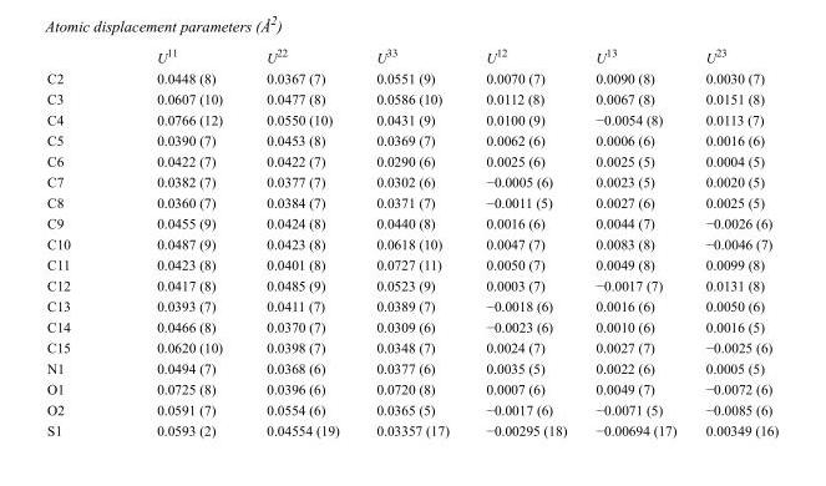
<table><thead><tr><td></td><td>U<sup>11</sup></td><td>U<sup>22</sup></td><td>U<sup>33</sup></td><td>U<sup>12</sup></td><td>U<sup>13</sup></td><td>U<sup>23</sup></td></tr></thead><tbody><tr><td>C2</td><td>0.0448 (8)</td><td>0.0367 (7)</td><td>0.0551 (9)</td><td>0.0070 (7)</td><td>0.0090 (8)</td><td>0.0030 (7)</td></tr><tr><td>C3</td><td>0.0607 (10)</td><td>0.0477 (8)</td><td>0.0586 (10)</td><td>0.0112 (8)</td><td>0.0067 (8)</td><td>0.0151 (8)</td></tr><tr><td>C4</td><td>0.0766 (12)</td><td>0.0550 (10)</td><td>0.0431 (9)</td><td>0.0100 (9)</td><td>−0.0054 (8)</td><td>0.0113 (7)</td></tr><tr><td>C5</td><td>0.0390 (7)</td><td>0.0453 (8)</td><td>0.0369 (7)</td><td>0.0062 (6)</td><td>0.0006 (6)</td><td>0.0016 (6)</td></tr><tr><td>C6</td><td>0.0422 (7)</td><td>0.0422 (7)</td><td>0.0290 (6)</td><td>0.0025 (6)</td><td>0.0025 (5)</td><td>0.0004 (5)</td></tr><tr><td>C7</td><td>0.0382 (7)</td><td>0.0377 (7)</td><td>0.0302 (6)</td><td>−0.0005 (6)</td><td>0.0023 (5)</td><td>0.0020 (5)</td></tr><tr><td>C8</td><td>0.0360 (7)</td><td>0.0384 (7)</td><td>0.0371 (7)</td><td>−0.0011 (5)</td><td>0.0027 (6)</td><td>0.0025 (5)</td></tr><tr><td>C9</td><td>0.0455 (9)</td><td>0.0424 (8)</td><td>0.0440 (8)</td><td>0.0016 (6)</td><td>0.0044 (7)</td><td>−0.0026 (6)</td></tr><tr><td>C10</td><td>0.0487 (9)</td><td>0.0423 (8)</td><td>0.0618 (10)</td><td>0.0047 (7)</td><td>0.0083 (8)</td><td>−0.0046 (7)</td></tr><tr><td>C11</td><td>0.0423 (8)</td><td>0.0401 (8)</td><td>0.0727 (11)</td><td>0.0050 (7)</td><td>0.0049 (8)</td><td>0.0099 (8)</td></tr><tr><td>C12</td><td>0.0417 (8)</td><td>0.0485 (9)</td><td>0.0523 (9)</td><td>0.0003 (7)</td><td>−0.0017 (7)</td><td>0.0131 (8)</td></tr><tr><td>C13</td><td>0.0393 (7)</td><td>0.0411 (7)</td><td>0.0389 (7)</td><td>−0.0018 (6)</td><td>0.0016 (6)</td><td>0.0050 (6)</td></tr><tr><td>C14</td><td>0.0466 (8)</td><td>0.0370 (7)</td><td>0.0309 (6)</td><td>−0.0023 (6)</td><td>0.0010 (6)</td><td>0.0016 (5)</td></tr><tr><td>C15</td><td>0.0620 (10)</td><td>0.0398 (7)</td><td>0.0348 (7)</td><td>0.0024 (7)</td><td>0.0027 (7)</td><td>−0.0025 (6)</td></tr><tr><td>N1</td><td>0.0494 (7)</td><td>0.0368 (6)</td><td>0.0377 (6)</td><td>0.0035 (5)</td><td>0.0022 (6)</td><td>0.0005 (5)</td></tr><tr><td>O1</td><td>0.0725 (8)</td><td>0.0396 (6)</td><td>0.0720 (8)</td><td>0.0007 (6)</td><td>0.0049 (7)</td><td>−0.0072 (6)</td></tr><tr><td>O2</td><td>0.0591 (7)</td><td>0.0554 (6)</td><td>0.0365 (5)</td><td>−0.0017 (6)</td><td>−0.0071 (5)</td><td>−0.0085 (6)</td></tr><tr><td>S1</td><td>0.0593 (2)</td><td>0.04554 (19)</td><td>0.03357 (17)</td><td>−0.00295 (18)</td><td>−0.00694 (17)</td><td>0.00349 (16)</td></tr></tbody></table>